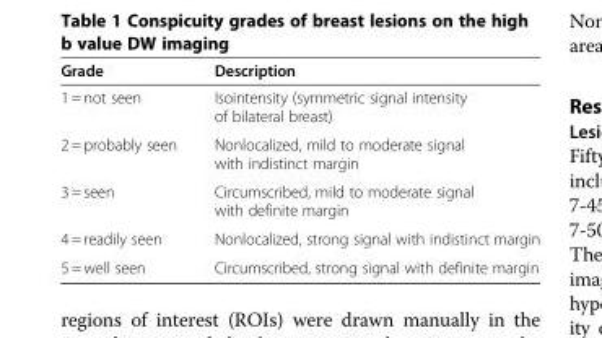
<table><thead><tr><td>Grade</td><td>Description</td></tr></thead><tbody><tr><td>1 = not seen</td><td>Isointensity (symmetric signal intensity of bilateral breast)</td></tr><tr><td>2 = probably seen</td><td>Nonlocalized, mild to moderate signal with indistinct margin</td></tr><tr><td>3 = seen</td><td>Circumscribed, mild to moderate signal with definite margin</td></tr><tr><td>4 = readily seen</td><td>Nonlocalized, strong signal with indistinct margin</td></tr><tr><td>5 = well seen</td><td>Circumscribed, strong signal with definite margin</td></tr></tbody></table>